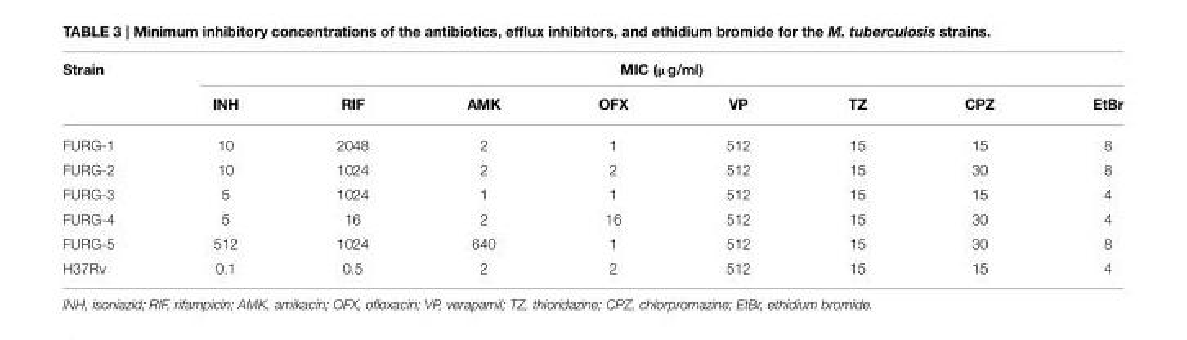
<table><thead><tr><td rowspan="2">Strain</td><td colspan="8">MIC (µg/ml)</td></tr><tr><td>INH</td><td>RIF</td><td>AMK</td><td>OFX</td><td>VP</td><td>TZ</td><td>CPZ</td><td>EtBr</td></tr></thead><tbody><tr><td>FURG-1</td><td>10</td><td>2048</td><td>2</td><td>1</td><td>512</td><td>15</td><td>15</td><td>8</td></tr><tr><td>FURG-2</td><td>10</td><td>1024</td><td>2</td><td>2</td><td>512</td><td>15</td><td>30</td><td>8</td></tr><tr><td>FURG-3</td><td>5</td><td>1024</td><td>1</td><td>1</td><td>512</td><td>15</td><td>15</td><td>4</td></tr><tr><td>FURG-4</td><td>5</td><td>16</td><td>2</td><td>16</td><td>512</td><td>15</td><td>30</td><td>4</td></tr><tr><td>FURG-5</td><td>512</td><td>1024</td><td>640</td><td>1</td><td>512</td><td>15</td><td>30</td><td>8</td></tr><tr><td>H37Rv</td><td>0.1</td><td>0.5</td><td>2</td><td>2</td><td>512</td><td>15</td><td>15</td><td>4</td></tr></tbody></table>